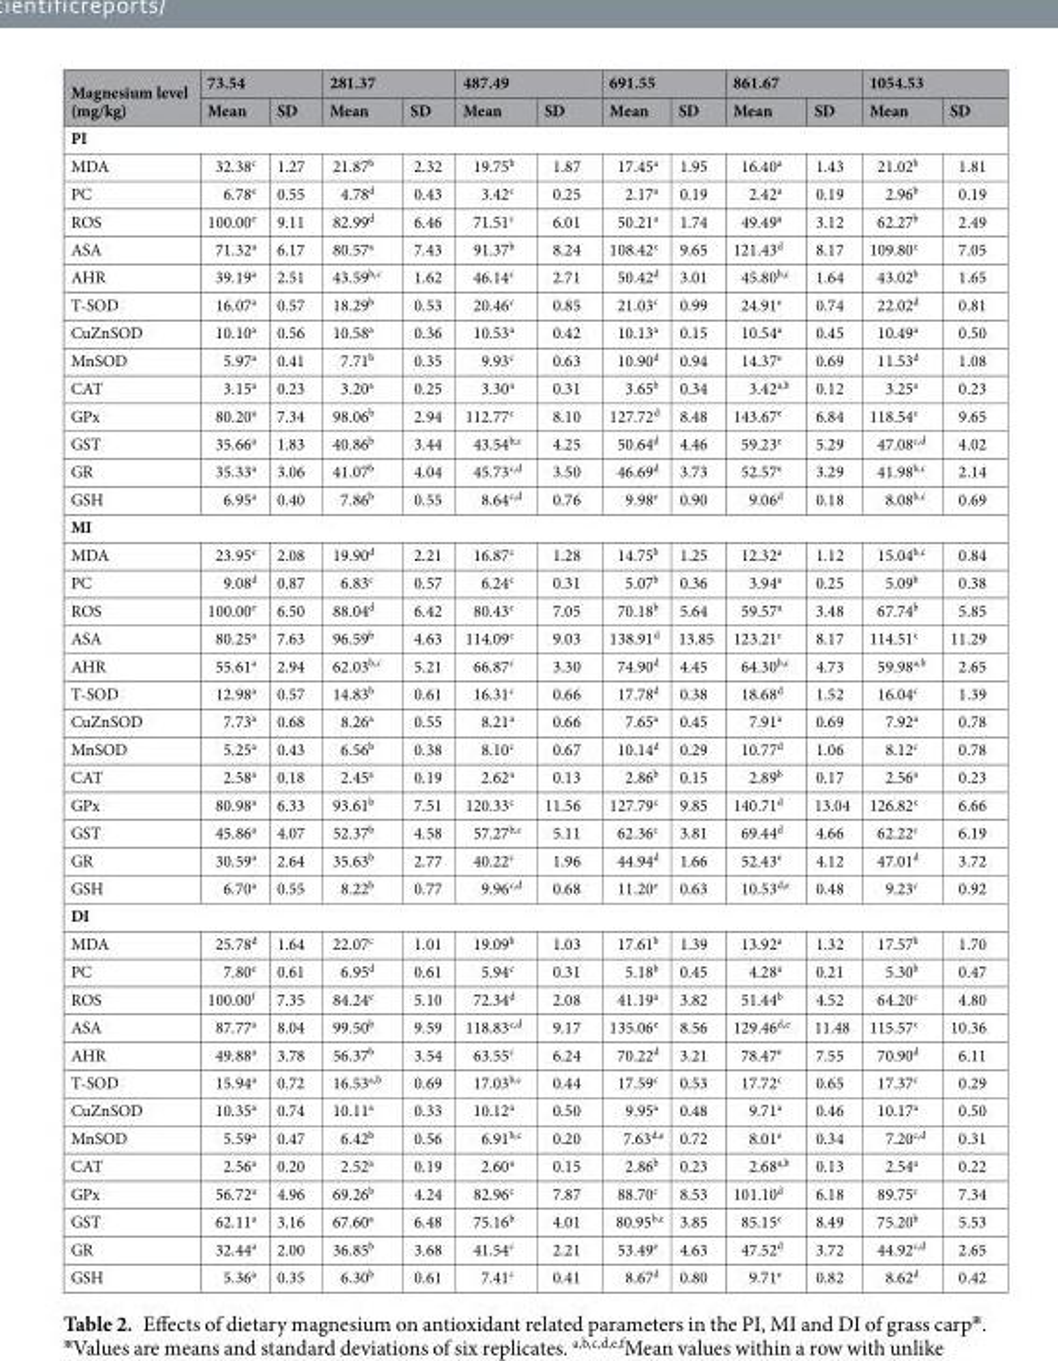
<table><thead><tr><td rowspan="2">Magnesium level (mg/kg)</td><td colspan="2">73.54</td><td colspan="2">281.37</td><td colspan="2">487.49</td><td colspan="2">691.55</td><td colspan="2">861.67</td><td colspan="2">1054.53</td></tr><tr><td>Mean</td><td>SD</td><td>Mean</td><td>SD</td><td>Mean</td><td>SD</td><td>Mean</td><td>SD</td><td>Mean</td><td>SD</td><td>Mean</td><td>SD</td></tr></thead><tbody><tr><td colspan="13">PI</td></tr><tr><td>MDA</td><td>32.38<sup>c</sup></td><td>1.27</td><td>21.87<sup>b</sup></td><td>2.32</td><td>19.75<sup>b</sup></td><td>1.87</td><td>17.45<sup>a</sup></td><td>1.95</td><td>16.40<sup>a</sup></td><td>1.43</td><td>21.02<sup>b</sup></td><td>1.81</td></tr><tr><td>PC</td><td>6.78<sup>e</sup></td><td>0.55</td><td>4.78<sup>d</sup></td><td>0.43</td><td>3.42<sup>c</sup></td><td>0.25</td><td>2.17<sup>a</sup></td><td>0.19</td><td>2.42<sup>a</sup></td><td>0.19</td><td>2.96<sup>b</sup></td><td>0.19</td></tr><tr><td>ROS</td><td>100.00<sup>e</sup></td><td>9.11</td><td>82.99<sup>d</sup></td><td>6.46</td><td>71.51<sup>c</sup></td><td>6.01</td><td>50.21<sup>a</sup></td><td>1.74</td><td>49.49<sup>a</sup></td><td>3.12</td><td>62.27<sup>b</sup></td><td>2.49</td></tr><tr><td>ASA</td><td>71.32<sup>a</sup></td><td>6.17</td><td>80.57<sup>a</sup></td><td>7.43</td><td>91.37<sup>b</sup></td><td>8.24</td><td>108.42<sup>c</sup></td><td>9.65</td><td>121.43<sup>d</sup></td><td>8.17</td><td>109.80<sup>c</sup></td><td>7.05</td></tr><tr><td>AHR</td><td>39.19<sup>a</sup></td><td>2.51</td><td>43.59<sup>b,c</sup></td><td>1.62</td><td>46.14<sup>c</sup></td><td>2.71</td><td>50.42<sup>d</sup></td><td>3.01</td><td>45.80<sup>b,c</sup></td><td>1.64</td><td>43.02<sup>b</sup></td><td>1.65</td></tr><tr><td>T-SOD</td><td>16.07<sup>a</sup></td><td>0.57</td><td>18.29<sup>b</sup></td><td>0.53</td><td>20.46<sup>c</sup></td><td>0.85</td><td>21.03<sup>c</sup></td><td>0.99</td><td>24.91<sup>e</sup></td><td>0.74</td><td>22.02<sup>d</sup></td><td>0.81</td></tr><tr><td>CuZnSOD</td><td>10.10<sup>a</sup></td><td>0.56</td><td>10.58<sup>a</sup></td><td>0.36</td><td>10.53<sup>a</sup></td><td>0.42</td><td>10.13<sup>a</sup></td><td>0.15</td><td>10.54<sup>a</sup></td><td>0.45</td><td>10.49<sup>a</sup></td><td>0.50</td></tr><tr><td>MnSOD</td><td>5.97<sup>a</sup></td><td>0.41</td><td>7.71<sup>b</sup></td><td>0.35</td><td>9.93<sup>c</sup></td><td>0.63</td><td>10.90<sup>d</sup></td><td>0.94</td><td>14.37<sup>e</sup></td><td>0.69</td><td>11.53<sup>d</sup></td><td>1.08</td></tr><tr><td>CAT</td><td>3.15<sup>a</sup></td><td>0.23</td><td>3.20<sup>a</sup></td><td>0.25</td><td>3.30<sup>a</sup></td><td>0.31</td><td>3.65<sup>b</sup></td><td>0.34</td><td>3.42<sup>a,b</sup></td><td>0.12</td><td>3.25<sup>a</sup></td><td>0.23</td></tr><tr><td>GPx</td><td>80.20<sup>a</sup></td><td>7.34</td><td>98.06<sup>b</sup></td><td>2.94</td><td>112.77<sup>c</sup></td><td>8.10</td><td>127.72<sup>d</sup></td><td>8.48</td><td>143.67<sup>e</sup></td><td>6.84</td><td>118.54<sup>c</sup></td><td>9.65</td></tr><tr><td>GST</td><td>35.66<sup>a</sup></td><td>1.83</td><td>40.86<sup>b</sup></td><td>3.44</td><td>43.54<sup>b,c</sup></td><td>4.25</td><td>50.64<sup>d</sup></td><td>4.46</td><td>59.23<sup>e</sup></td><td>5.29</td><td>47.08<sup>c,d</sup></td><td>4.02</td></tr><tr><td>GR</td><td>35.33<sup>a</sup></td><td>3.06</td><td>41.07<sup>b</sup></td><td>4.04</td><td>45.73<sup>c,d</sup></td><td>3.50</td><td>46.69<sup>d</sup></td><td>3.73</td><td>52.57<sup>e</sup></td><td>3.29</td><td>41.98<sup>b,c</sup></td><td>2.14</td></tr><tr><td>GSH</td><td>6.95<sup>a</sup></td><td>0.40</td><td>7.86<sup>b</sup></td><td>0.55</td><td>8.64<sup>c,d</sup></td><td>0.76</td><td>9.98<sup>e</sup></td><td>0.90</td><td>9.06<sup>d</sup></td><td>0.18</td><td>8.08<sup>b,c</sup></td><td>0.69</td></tr><tr><td colspan="13">MI</td></tr><tr><td>MDA</td><td>23.95<sup>e</sup></td><td>2.08</td><td>19.90<sup>d</sup></td><td>2.21</td><td>16.87<sup>c</sup></td><td>1.28</td><td>14.75<sup>b</sup></td><td>1.25</td><td>12.32<sup>a</sup></td><td>1.12</td><td>15.04<sup>b,c</sup></td><td>0.84</td></tr><tr><td>PC</td><td>9.08<sup>d</sup></td><td>0.87</td><td>6.83<sup>c</sup></td><td>0.57</td><td>6.24<sup>c</sup></td><td>0.31</td><td>5.07<sup>b</sup></td><td>0.36</td><td>3.94<sup>a</sup></td><td>0.25</td><td>5.09<sup>b</sup></td><td>0.38</td></tr><tr><td>ROS</td><td>100.00<sup>e</sup></td><td>6.50</td><td>88.04<sup>d</sup></td><td>6.42</td><td>80.43<sup>c</sup></td><td>7.05</td><td>70.18<sup>b</sup></td><td>5.64</td><td>59.57<sup>a</sup></td><td>3.48</td><td>67.74<sup>b</sup></td><td>5.85</td></tr><tr><td>ASA</td><td>80.25<sup>a</sup></td><td>7.63</td><td>96.59<sup>b</sup></td><td>4.63</td><td>114.09<sup>c</sup></td><td>9.03</td><td>138.91<sup>d</sup></td><td>13.85</td><td>123.21<sup>c</sup></td><td>8.17</td><td>114.51<sup>c</sup></td><td>11.29</td></tr><tr><td>AHR</td><td>55.61<sup>a</sup></td><td>2.94</td><td>62.03<sup>b,c</sup></td><td>5.21</td><td>66.87<sup>c</sup></td><td>3.30</td><td>74.90<sup>d</sup></td><td>4.45</td><td>64.30<sup>b,c</sup></td><td>4.73</td><td>59.98<sup>a,b</sup></td><td>2.65</td></tr><tr><td>T-SOD</td><td>12.98<sup>a</sup></td><td>0.57</td><td>14.83<sup>b</sup></td><td>0.61</td><td>16.31<sup>c</sup></td><td>0.66</td><td>17.78<sup>d</sup></td><td>0.38</td><td>18.68<sup>d</sup></td><td>1.52</td><td>16.04<sup>c</sup></td><td>1.39</td></tr><tr><td>CuZnSOD</td><td>7.73<sup>a</sup></td><td>0.68</td><td>8.26<sup>a</sup></td><td>0.55</td><td>8.21<sup>a</sup></td><td>0.66</td><td>7.65<sup>a</sup></td><td>0.45</td><td>7.91<sup>a</sup></td><td>0.69</td><td>7.92<sup>a</sup></td><td>0.78</td></tr><tr><td>MnSOD</td><td>5.25<sup>a</sup></td><td>0.43</td><td>6.56<sup>b</sup></td><td>0.38</td><td>8.10<sup>c</sup></td><td>0.67</td><td>10.14<sup>d</sup></td><td>0.29</td><td>10.77<sup>d</sup></td><td>1.06</td><td>8.12<sup>c</sup></td><td>0.78</td></tr><tr><td>CAT</td><td>2.58<sup>a</sup></td><td>0.18</td><td>2.45<sup>a</sup></td><td>0.19</td><td>2.62<sup>a</sup></td><td>0.13</td><td>2.86<sup>b</sup></td><td>0.15</td><td>2.89<sup>b</sup></td><td>0.17</td><td>2.56<sup>a</sup></td><td>0.23</td></tr><tr><td>GPx</td><td>80.98<sup>a</sup></td><td>6.33</td><td>93.61<sup>b</sup></td><td>7.51</td><td>120.33<sup>c</sup></td><td>11.56</td><td>127.79<sup>c</sup></td><td>9.85</td><td>140.71<sup>d</sup></td><td>13.04</td><td>126.82<sup>c</sup></td><td>6.66</td></tr><tr><td>GST</td><td>45.86<sup>a</sup></td><td>4.07</td><td>52.37<sup>b</sup></td><td>4.58</td><td>57.27<sup>b,c</sup></td><td>5.11</td><td>62.36<sup>c</sup></td><td>3.81</td><td>69.44<sup>d</sup></td><td>4.66</td><td>62.22<sup>c</sup></td><td>6.19</td></tr><tr><td>GR</td><td>30.59<sup>a</sup></td><td>2.64</td><td>35.63<sup>b</sup></td><td>2.77</td><td>40.22<sup>c</sup></td><td>1.96</td><td>44.94<sup>d</sup></td><td>1.66</td><td>52.43<sup>e</sup></td><td>4.12</td><td>47.01<sup>d</sup></td><td>3.72</td></tr><tr><td>GSH</td><td>6.70<sup>a</sup></td><td>0.55</td><td>8.22<sup>b</sup></td><td>0.77</td><td>9.96<sup>c,d</sup></td><td>0.68</td><td>11.20<sup>e</sup></td><td>0.63</td><td>10.53<sup>d,e</sup></td><td>0.48</td><td>9.23<sup>c</sup></td><td>0.92</td></tr><tr><td colspan="13">DI</td></tr><tr><td>MDA</td><td>25.78<sup>d</sup></td><td>1.64</td><td>22.07<sup>c</sup></td><td>1.01</td><td>19.09<sup>b</sup></td><td>1.03</td><td>17.61<sup>b</sup></td><td>1.39</td><td>13.92<sup>a</sup></td><td>1.32</td><td>17.57<sup>b</sup></td><td>1.70</td></tr><tr><td>PC</td><td>7.80<sup>e</sup></td><td>0.61</td><td>6.95<sup>d</sup></td><td>0.61</td><td>5.94<sup>c</sup></td><td>0.31</td><td>5.18<sup>b</sup></td><td>0.45</td><td>4.28<sup>a</sup></td><td>0.21</td><td>5.30<sup>b</sup></td><td>0.47</td></tr><tr><td>ROS</td><td>100.00<sup>f</sup></td><td>7.35</td><td>84.24<sup>e</sup></td><td>5.10</td><td>72.34<sup>d</sup></td><td>2.08</td><td>41.19<sup>a</sup></td><td>3.82</td><td>51.44<sup>b</sup></td><td>4.52</td><td>64.20<sup>c</sup></td><td>4.80</td></tr><tr><td>ASA</td><td>87.77<sup>a</sup></td><td>8.04</td><td>99.50<sup>b</sup></td><td>9.59</td><td>118.83<sup>c,d</sup></td><td>9.17</td><td>135.06<sup>e</sup></td><td>8.56</td><td>129.46<sup>d,e</sup></td><td>11.48</td><td>115.57<sup>c</sup></td><td>10.36</td></tr><tr><td>AHR</td><td>49.88<sup>a</sup></td><td>3.78</td><td>56.37<sup>b</sup></td><td>3.54</td><td>63.55<sup>c</sup></td><td>6.24</td><td>70.22<sup>d</sup></td><td>3.21</td><td>78.47<sup>e</sup></td><td>7.55</td><td>70.90<sup>d</sup></td><td>6.11</td></tr><tr><td>T-SOD</td><td>15.94<sup>a</sup></td><td>0.72</td><td>16.53<sup>a,b</sup></td><td>0.69</td><td>17.03<sup>b,c</sup></td><td>0.44</td><td>17.59<sup>c</sup></td><td>0.53</td><td>17.72<sup>c</sup></td><td>0.65</td><td>17.37<sup>c</sup></td><td>0.29</td></tr><tr><td>CuZnSOD</td><td>10.35<sup>a</sup></td><td>0.74</td><td>10.11<sup>a</sup></td><td>0.33</td><td>10.12<sup>a</sup></td><td>0.50</td><td>9.95<sup>a</sup></td><td>0.48</td><td>9.71<sup>a</sup></td><td>0.46</td><td>10.17<sup>a</sup></td><td>0.50</td></tr><tr><td>MnSOD</td><td>5.59<sup>a</sup></td><td>0.47</td><td>6.42<sup>b</sup></td><td>0.56</td><td>6.91<sup>b,c</sup></td><td>0.20</td><td>7.63<sup>d,e</sup></td><td>0.72</td><td>8.01<sup>e</sup></td><td>0.34</td><td>7.20<sup>c,d</sup></td><td>0.31</td></tr><tr><td>CAT</td><td>2.56<sup>a</sup></td><td>0.20</td><td>2.52<sup>a</sup></td><td>0.19</td><td>2.60<sup>a</sup></td><td>0.15</td><td>2.86<sup>b</sup></td><td>0.23</td><td>2.68<sup>a,b</sup></td><td>0.13</td><td>2.54<sup>a</sup></td><td>0.22</td></tr><tr><td>GPx</td><td>56.72<sup>a</sup></td><td>4.96</td><td>69.26<sup>b</sup></td><td>4.24</td><td>82.96<sup>c</sup></td><td>7.87</td><td>88.70<sup>c</sup></td><td>8.53</td><td>101.10<sup>d</sup></td><td>6.18</td><td>89.75<sup>c</sup></td><td>7.34</td></tr><tr><td>GST</td><td>62.11<sup>a</sup></td><td>3.16</td><td>67.60<sup>a</sup></td><td>6.48</td><td>75.16<sup>b</sup></td><td>4.01</td><td>80.95<sup>b,c</sup></td><td>3.85</td><td>85.15<sup>c</sup></td><td>8.49</td><td>75.20<sup>b</sup></td><td>5.53</td></tr><tr><td>GR</td><td>32.44<sup>a</sup></td><td>2.00</td><td>36.85<sup>b</sup></td><td>3.68</td><td>41.54<sup>c</sup></td><td>2.21</td><td>53.49<sup>e</sup></td><td>4.63</td><td>47.52<sup>d</sup></td><td>3.72</td><td>44.92<sup>c,d</sup></td><td>2.65</td></tr><tr><td>GSH</td><td>5.36<sup>a</sup></td><td>0.35</td><td>6.30<sup>b</sup></td><td>0.61</td><td>7.41<sup>c</sup></td><td>0.41</td><td>8.67<sup>d</sup></td><td>0.80</td><td>9.71<sup>e</sup></td><td>0.82</td><td>8.62<sup>d</sup></td><td>0.42</td></tr></tbody></table>